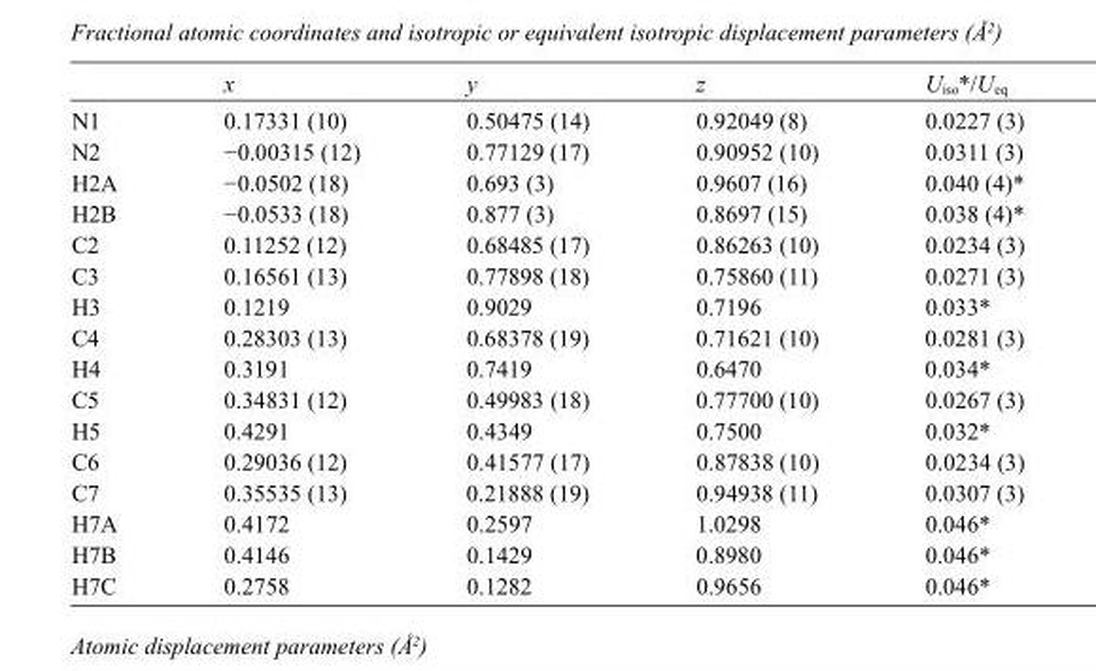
<table><thead><tr><td></td><td>x</td><td>y</td><td>z</td><td>U<sub>iso</sub>*/U<sub>eq</sub></td></tr></thead><tbody><tr><td>N1</td><td>0.17331 (10)</td><td>0.50475 (14)</td><td>0.92049 (8)</td><td>0.0227 (3)</td></tr><tr><td>N2</td><td>−0.00315 (12)</td><td>0.77129 (17)</td><td>0.90952 (10)</td><td>0.0311 (3)</td></tr><tr><td>H2A</td><td>−0.0502 (18)</td><td>0.693 (3)</td><td>0.9607 (16)</td><td>0.040 (4)*</td></tr><tr><td>H2B</td><td>−0.0533 (18)</td><td>0.877 (3)</td><td>0.8697 (15)</td><td>0.038 (4)*</td></tr><tr><td>C2</td><td>0.11252 (12)</td><td>0.68485 (17)</td><td>0.86263 (10)</td><td>0.0234 (3)</td></tr><tr><td>C3</td><td>0.16561 (13)</td><td>0.77898 (18)</td><td>0.75860 (11)</td><td>0.0271 (3)</td></tr><tr><td>H3</td><td>0.1219</td><td>0.9029</td><td>0.7196</td><td>0.033*</td></tr><tr><td>C4</td><td>0.28303 (13)</td><td>0.68378 (19)</td><td>0.71621 (10)</td><td>0.0281 (3)</td></tr><tr><td>H4</td><td>0.3191</td><td>0.7419</td><td>0.6470</td><td>0.034*</td></tr><tr><td>C5</td><td>0.34831 (12)</td><td>0.49983 (18)</td><td>0.77700 (10)</td><td>0.0267 (3)</td></tr><tr><td>H5</td><td>0.4291</td><td>0.4349</td><td>0.7500</td><td>0.032*</td></tr><tr><td>C6</td><td>0.29036 (12)</td><td>0.41577 (17)</td><td>0.87838 (10)</td><td>0.0234 (3)</td></tr><tr><td>C7</td><td>0.35535 (13)</td><td>0.21888 (19)</td><td>0.94938 (11)</td><td>0.0307 (3)</td></tr><tr><td>H7A</td><td>0.4172</td><td>0.2597</td><td>1.0298</td><td>0.046*</td></tr><tr><td>H7B</td><td>0.4146</td><td>0.1429</td><td>0.8980</td><td>0.046*</td></tr><tr><td>H7C</td><td>0.2758</td><td>0.1282</td><td>0.9656</td><td>0.046*</td></tr></tbody></table>